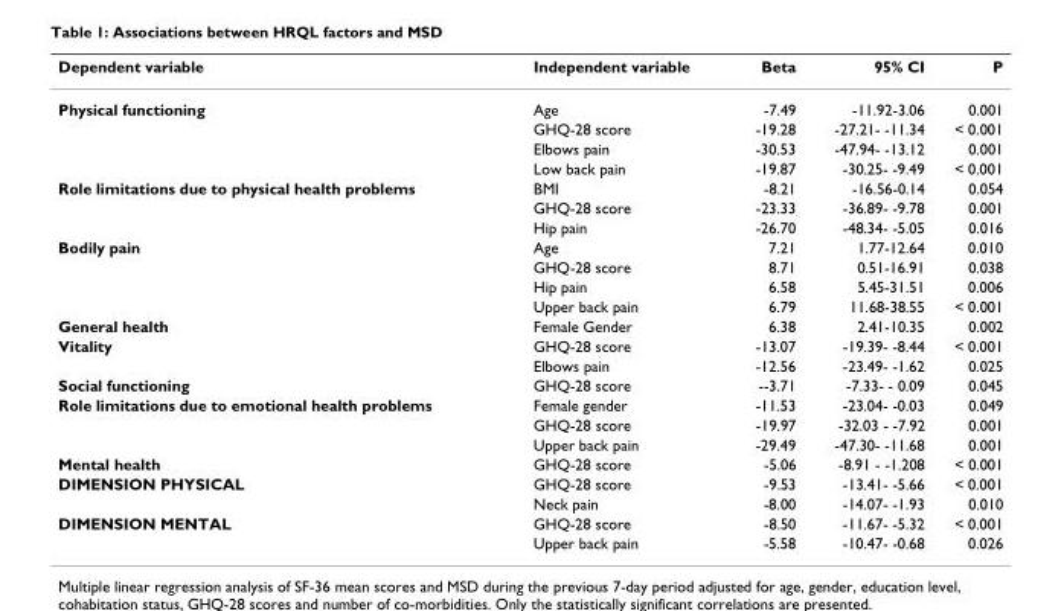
<table><thead><tr><td>Dependent variable</td><td>Independent variable</td><td>Beta</td><td>95% CI</td><td>P</td></tr></thead><tbody><tr><td rowspan="4">Physical functioning</td><td>Age</td><td>-7.49</td><td>-11.92-3.06</td><td>0.001</td></tr><tr><td>GHQ-28 score</td><td>-19.28</td><td>-27.21- -11.34</td><td>&lt; 0.001</td></tr><tr><td>Elbows pain</td><td>-30.53</td><td>-47.94- -13.12</td><td>0.001</td></tr><tr><td>Low back pain</td><td>-19.87</td><td>-30.25- -9.49</td><td>&lt; 0.001</td></tr><tr><td rowspan="3">Role limitations due to physical health problems</td><td>BMI</td><td>-8.21</td><td>-16.56-0.14</td><td>0.054</td></tr><tr><td>GHQ-28 score</td><td>-23.33</td><td>-36.89- -9.78</td><td>0.001</td></tr><tr><td>Hip pain</td><td>-26.70</td><td>-48.34- -5.05</td><td>0.016</td></tr><tr><td rowspan="4">Bodily pain</td><td>Age</td><td>7.21</td><td>1.77-12.64</td><td>0.010</td></tr><tr><td>GHQ-28 score</td><td>8.71</td><td>0.51-16.91</td><td>0.038</td></tr><tr><td>Hip pain</td><td>6.58</td><td>5.45-31.51</td><td>0.006</td></tr><tr><td>Upper back pain</td><td>6.79</td><td>11.68-38.55</td><td>&lt; 0.001</td></tr><tr><td>General health</td><td>Female Gender</td><td>6.38</td><td>2.41-10.35</td><td>0.002</td></tr><tr><td rowspan="2">Vitality</td><td>GHQ-28 score</td><td>-13.07</td><td>-19.39- -8.44</td><td>&lt; 0.001</td></tr><tr><td>Elbows pain</td><td>-12.56</td><td>-23.49- -1.62</td><td>0.025</td></tr><tr><td>Social functioning</td><td>GHQ-28 score</td><td>--3.71</td><td>-7.33- - 0.09</td><td>0.045</td></tr><tr><td rowspan="3">Role limitations due to emotional health problems</td><td>Female gender</td><td>-11.53</td><td>-23.04- -0.03</td><td>0.049</td></tr><tr><td>GHQ-28 score</td><td>-19.97</td><td>-32.03 - -7.92</td><td>0.001</td></tr><tr><td>Upper back pain</td><td>-29.49</td><td>-47.30- -11.68</td><td>0.001</td></tr><tr><td>Mental health</td><td>GHQ-28 score</td><td>-5.06</td><td>-8.91 - -1.208</td><td>&lt; 0.001</td></tr><tr><td rowspan="2">DIMENSION PHYSICAL</td><td>GHQ-28 score</td><td>-9.53</td><td>-13.41- -5.66</td><td>&lt; 0.001</td></tr><tr><td>Neck pain</td><td>-8.00</td><td>-14.07- -1.93</td><td>0.010</td></tr><tr><td rowspan="2">DIMENSION MENTAL</td><td>GHQ-28 score</td><td>-8.50</td><td>-11.67- -5.32</td><td>&lt; 0.001</td></tr><tr><td>Upper back pain</td><td>-5.58</td><td>-10.47- -0.68</td><td>0.026</td></tr></tbody></table>